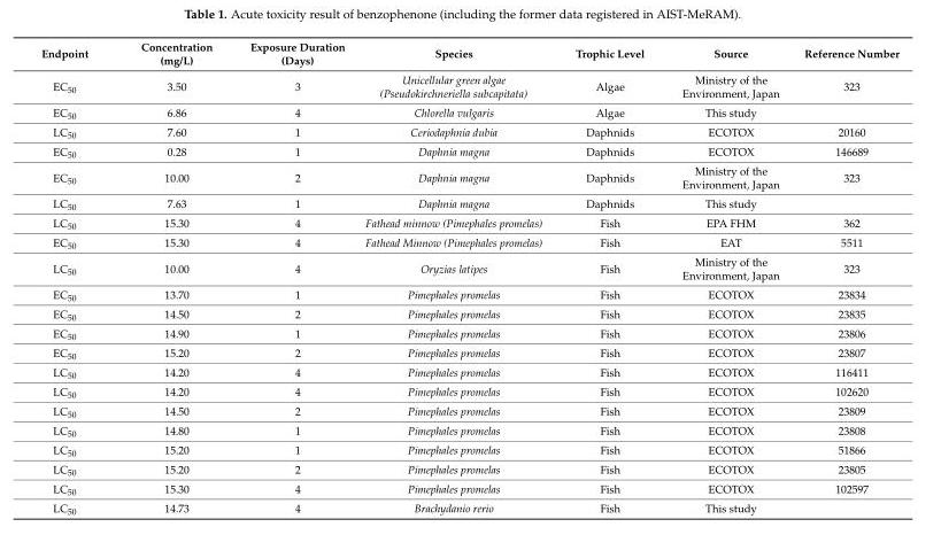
<table><thead><tr><td>Endpoint</td><td>Concentration (mg/L)</td><td>Exposure Duration (Days)</td><td>Species</td><td>Trophic Level</td><td>Source</td><td>Reference Number</td></tr></thead><tbody><tr><td>EC<sub>50</sub></td><td>3.50</td><td>3</td><td>Unicellular green algae (Pseudokirchneriella subcapitata)</td><td>Algae</td><td>Ministry of the Environment, Japan</td><td>323</td></tr><tr><td>EC<sub>50</sub></td><td>6.86</td><td>4</td><td>Chlorella vulgaris</td><td>Algae</td><td>This study</td><td></td></tr><tr><td>LC<sub>50</sub></td><td>7.60</td><td>1</td><td>Ceriodaphnia dubia</td><td>Daphnids</td><td>ECOTOX</td><td>20160</td></tr><tr><td>EC<sub>50</sub></td><td>0.28</td><td>1</td><td>Daphnia magna</td><td>Daphnids</td><td>ECOTOX</td><td>146689</td></tr><tr><td>EC<sub>50</sub></td><td>10.00</td><td>2</td><td>Daphnia magna</td><td>Daphnids</td><td>Ministry of the Environment, Japan</td><td>323</td></tr><tr><td>LC<sub>50</sub></td><td>7.63</td><td>1</td><td>Daphnia magna</td><td>Daphnids</td><td>This study</td><td></td></tr><tr><td>LC<sub>50</sub></td><td>15.30</td><td>4</td><td>Fathead minnow (Pimephales promelas)</td><td>Fish</td><td>EPA FHM</td><td>362</td></tr><tr><td>EC<sub>50</sub></td><td>15.30</td><td>4</td><td>Fathead Minnow (Pimephales promelas)</td><td>Fish</td><td>EAT</td><td>5511</td></tr><tr><td>LC<sub>50</sub></td><td>10.00</td><td>4</td><td>Oryzias latipes</td><td>Fish</td><td>Ministry of the Environment, Japan</td><td>323</td></tr><tr><td>EC<sub>50</sub></td><td>13.70</td><td>1</td><td>Pimephales promelas</td><td>Fish</td><td>ECOTOX</td><td>23834</td></tr><tr><td>EC<sub>50</sub></td><td>14.50</td><td>2</td><td>Pimephales promelas</td><td>Fish</td><td>ECOTOX</td><td>23835</td></tr><tr><td>EC<sub>50</sub></td><td>14.90</td><td>1</td><td>Pimephales promelas</td><td>Fish</td><td>ECOTOX</td><td>23806</td></tr><tr><td>EC<sub>50</sub></td><td>15.20</td><td>2</td><td>Pimephales promelas</td><td>Fish</td><td>ECOTOX</td><td>23807</td></tr><tr><td>LC<sub>50</sub></td><td>14.20</td><td>4</td><td>Pimephales promelas</td><td>Fish</td><td>ECOTOX</td><td>116411</td></tr><tr><td>LC<sub>50</sub></td><td>14.20</td><td>4</td><td>Pimephales promelas</td><td>Fish</td><td>ECOTOX</td><td>102620</td></tr><tr><td>LC<sub>50</sub></td><td>14.50</td><td>2</td><td>Pimephales promelas</td><td>Fish</td><td>ECOTOX</td><td>23809</td></tr><tr><td>LC<sub>50</sub></td><td>14.80</td><td>1</td><td>Pimephales promelas</td><td>Fish</td><td>ECOTOX</td><td>23808</td></tr><tr><td>LC<sub>50</sub></td><td>15.20</td><td>1</td><td>Pimephales promelas</td><td>Fish</td><td>ECOTOX</td><td>51866</td></tr><tr><td>LC<sub>50</sub></td><td>15.20</td><td>2</td><td>Pimephales promelas</td><td>Fish</td><td>ECOTOX</td><td>23805</td></tr><tr><td>LC<sub>50</sub></td><td>15.30</td><td>4</td><td>Pimephales promelas</td><td>Fish</td><td>ECOTOX</td><td>102597</td></tr><tr><td>LC<sub>50</sub></td><td>14.73</td><td>4</td><td>Brachydanio rerio</td><td>Fish</td><td>This study</td><td></td></tr></tbody></table>